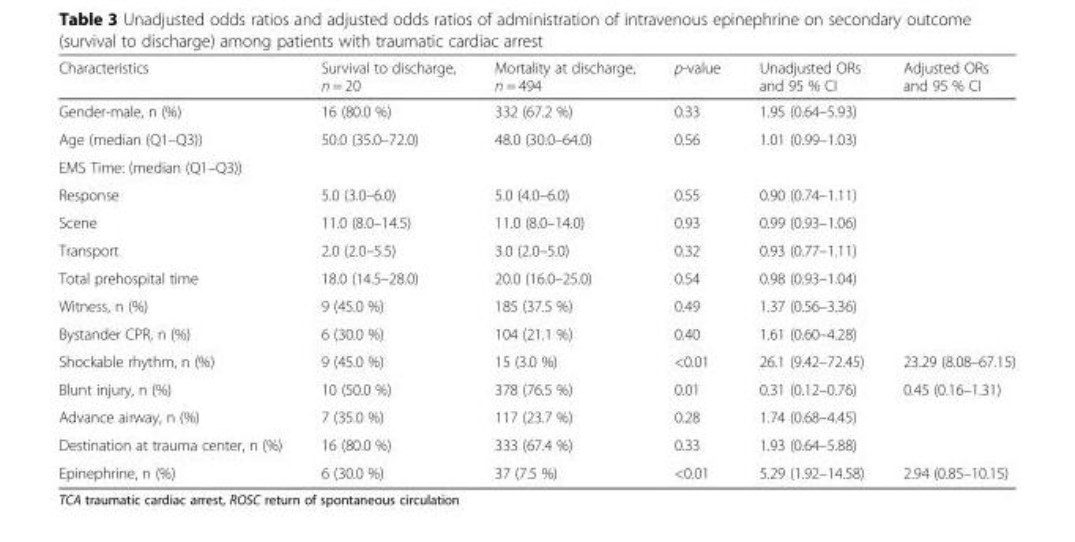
<table><thead><tr><td>Characteristics</td><td>Survival to discharge, n = 20</td><td>Mortality at discharge, n = 494</td><td>p-value</td><td>Unadjusted ORs and 95 % CI</td><td>Adjusted ORs and 95 % CI</td></tr></thead><tbody><tr><td>Gender-male, n (%)</td><td>16 (80.0 %)</td><td>332 (67.2 %)</td><td>0.33</td><td>1.95 (0.64–5.93)</td><td></td></tr><tr><td>Age (median (Q1–Q3))</td><td>50.0 (35.0–72.0)</td><td>48.0 (30.0–64.0)</td><td>0.56</td><td>1.01 (0.99–1.03)</td><td></td></tr><tr><td colspan="6">EMS Time: (median (Q1–Q3))</td></tr><tr><td>Response</td><td>5.0 (3.0–6.0)</td><td>5.0 (4.0–6.0)</td><td>0.55</td><td>0.90 (0.74–1.11)</td><td></td></tr><tr><td>Scene</td><td>11.0 (8.0–14.5)</td><td>11.0 (8.0–14.0)</td><td>0.93</td><td>0.99 (0.93–1.06)</td><td></td></tr><tr><td>Transport</td><td>2.0 (2.0–5.5)</td><td>3.0 (2.0–5.0)</td><td>0.32</td><td>0.93 (0.77–1.11)</td><td></td></tr><tr><td>Total prehospital time</td><td>18.0 (14.5–28.0)</td><td>20.0 (16.0–25.0)</td><td>0.54</td><td>0.98 (0.93–1.04)</td><td></td></tr><tr><td>Witness, n (%)</td><td>9 (45.0 %)</td><td>185 (37.5 %)</td><td>0.49</td><td>1.37 (0.56–3.36)</td><td></td></tr><tr><td>Bystander CPR, n (%)</td><td>6 (30.0 %)</td><td>104 (21.1 %)</td><td>0.40</td><td>1.61 (0.60–4.28)</td><td></td></tr><tr><td>Shockable rhythm, n (%)</td><td>9 (45.0 %)</td><td>15 (3.0 %)</td><td>&lt;0.01</td><td>26.1 (9.42–72.45)</td><td>23.29 (8.08–67.15)</td></tr><tr><td>Blunt injury, n (%)</td><td>10 (50.0 %)</td><td>378 (76.5 %)</td><td>0.01</td><td>0.31 (0.12–0.76)</td><td>0.45 (0.16–1.31)</td></tr><tr><td>Advance airway, n (%)</td><td>7 (35.0 %)</td><td>117 (23.7 %)</td><td>0.28</td><td>1.74 (0.68–4.45)</td><td></td></tr><tr><td>Destination at trauma center, n (%)</td><td>16 (80.0 %)</td><td>333 (67.4 %)</td><td>0.33</td><td>1.93 (0.64–5.88)</td><td></td></tr><tr><td>Epinephrine, n (%)</td><td>6 (30.0 %)</td><td>37 (7.5 %)</td><td>&lt;0.01</td><td>5.29 (1.92–14.58)</td><td>2.94 (0.85–10.15)</td></tr></tbody></table>